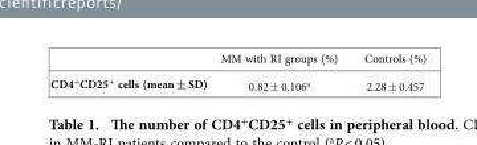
<table><thead><tr><td></td><td>MM with RI groups (%)</td><td>Controls (%)</td></tr></thead><tbody><tr><td>CD4<sup>+</sup>CD25<sup>+</sup> cells (mean ± SD)</td><td>0.82 ± 0.106<sup>a</sup></td><td>2.28 ± 0.457</td></tr></tbody></table>